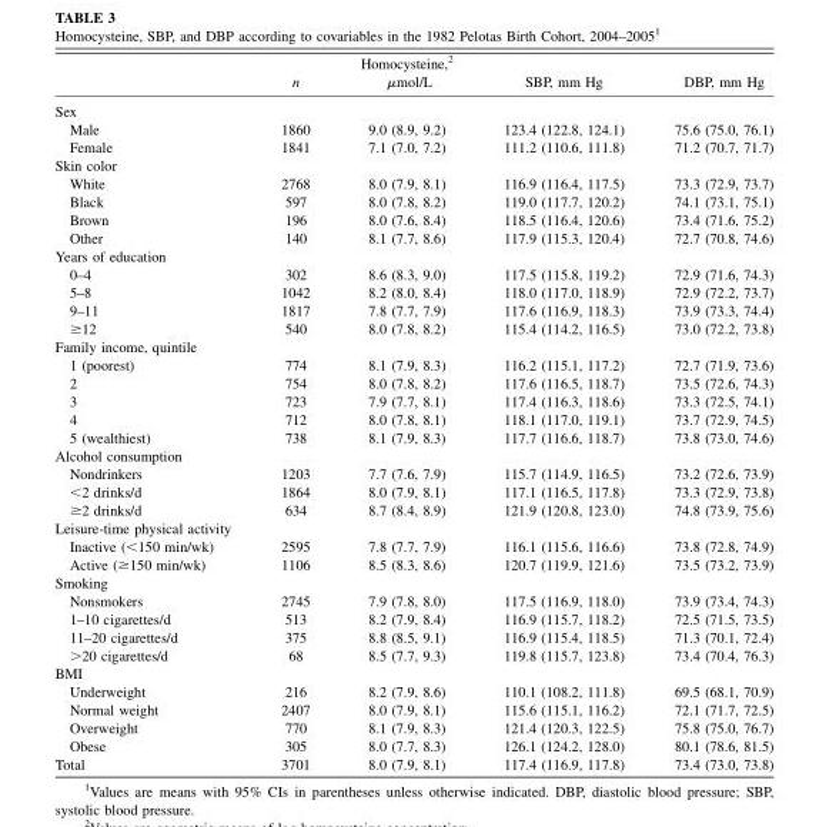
<table><thead><tr><td></td><td>n</td><td>Homocysteine,<sup>2</sup> μmol/L</td><td>SBP, mm Hg</td><td>DBP, mm Hg</td></tr></thead><tbody><tr><td colspan="5">Sex</td></tr><tr><td>Male</td><td>1860</td><td>9.0 (8.9, 9.2)</td><td>123.4 (122.8, 124.1)</td><td>75.6 (75.0, 76.1)</td></tr><tr><td>Female</td><td>1841</td><td>7.1 (7.0, 7.2)</td><td>111.2 (110.6, 111.8)</td><td>71.2 (70.7, 71.7)</td></tr><tr><td colspan="5">Skin color</td></tr><tr><td>White</td><td>2768</td><td>8.0 (7.9, 8.1)</td><td>116.9 (116.4, 117.5)</td><td>73.3 (72.9, 73.7)</td></tr><tr><td>Black</td><td>597</td><td>8.0 (7.8, 8.2)</td><td>119.0 (117.7, 120.2)</td><td>74.1 (73.1, 75.1)</td></tr><tr><td>Brown</td><td>196</td><td>8.0 (7.6, 8.4)</td><td>118.5 (116.4, 120.6)</td><td>73.4 (71.6, 75.2)</td></tr><tr><td>Other</td><td>140</td><td>8.1 (7.7, 8.6)</td><td>117.9 (115.3, 120.4)</td><td>72.7 (70.8, 74.6)</td></tr><tr><td colspan="5">Years of education</td></tr><tr><td>0–4</td><td>302</td><td>8.6 (8.3, 9.0)</td><td>117.5 (115.8, 119.2)</td><td>72.9 (71.6, 74.3)</td></tr><tr><td>5–8</td><td>1042</td><td>8.2 (8.0, 8.4)</td><td>118.0 (117.0, 118.9)</td><td>72.9 (72.2, 73.7)</td></tr><tr><td>9–11</td><td>1817</td><td>7.8 (7.7, 7.9)</td><td>117.6 (116.9, 118.3)</td><td>73.9 (73.3, 74.4)</td></tr><tr><td>≥12</td><td>540</td><td>8.0 (7.8, 8.2)</td><td>115.4 (114.2, 116.5)</td><td>73.0 (72.2, 73.8)</td></tr><tr><td colspan="5">Family income, quintile</td></tr><tr><td>1 (poorest)</td><td>774</td><td>8.1 (7.9, 8.3)</td><td>116.2 (115.1, 117.2)</td><td>72.7 (71.9, 73.6)</td></tr><tr><td>2</td><td>754</td><td>8.0 (7.8, 8.2)</td><td>117.6 (116.5, 118.7)</td><td>73.5 (72.6, 74.3)</td></tr><tr><td>3</td><td>723</td><td>7.9 (7.7, 8.1)</td><td>117.4 (116.3, 118.6)</td><td>73.3 (72.5, 74.1)</td></tr><tr><td>4</td><td>712</td><td>8.0 (7.8, 8.1)</td><td>118.1 (117.0, 119.1)</td><td>73.7 (72.9, 74.5)</td></tr><tr><td>5 (wealthiest)</td><td>738</td><td>8.1 (7.9, 8.3)</td><td>117.7 (116.6, 118.7)</td><td>73.8 (73.0, 74.6)</td></tr><tr><td colspan="5">Alcohol consumption</td></tr><tr><td>Nondrinkers</td><td>1203</td><td>7.7 (7.6, 7.9)</td><td>115.7 (114.9, 116.5)</td><td>73.2 (72.6, 73.9)</td></tr><tr><td>&lt;2 drinks/d</td><td>1864</td><td>8.0 (7.9, 8.1)</td><td>117.1 (116.5, 117.8)</td><td>73.3 (72.9, 73.8)</td></tr><tr><td>≥2 drinks/d</td><td>634</td><td>8.7 (8.4, 8.9)</td><td>121.9 (120.8, 123.0)</td><td>74.8 (73.9, 75.6)</td></tr><tr><td colspan="5">Leisure-time physical activity</td></tr><tr><td>Inactive (&lt;150 min/wk)</td><td>2595</td><td>7.8 (7.7, 7.9)</td><td>116.1 (115.6, 116.6)</td><td>73.8 (72.8, 74.9)</td></tr><tr><td>Active (≥150 min/wk)</td><td>1106</td><td>8.5 (8.3, 8.6)</td><td>120.7 (119.9, 121.6)</td><td>73.5 (73.2, 73.9)</td></tr><tr><td colspan="5">Smoking</td></tr><tr><td>Nonsmokers</td><td>2745</td><td>7.9 (7.8, 8.0)</td><td>117.5 (116.9, 118.0)</td><td>73.9 (73.4, 74.3)</td></tr><tr><td>1–10 cigarettes/d</td><td>513</td><td>8.2 (7.9, 8.4)</td><td>116.9 (115.7, 118.2)</td><td>72.5 (71.5, 73.5)</td></tr><tr><td>11–20 cigarettes/d</td><td>375</td><td>8.8 (8.5, 9.1)</td><td>116.9 (115.4, 118.5)</td><td>71.3 (70.1, 72.4)</td></tr><tr><td>&gt;20 cigarettes/d</td><td>68</td><td>8.5 (7.7, 9.3)</td><td>119.8 (115.7, 123.8)</td><td>73.4 (70.4, 76.3)</td></tr><tr><td colspan="5">BMI</td></tr><tr><td>Underweight</td><td>216</td><td>8.2 (7.9, 8.6)</td><td>110.1 (108.2, 111.8)</td><td>69.5 (68.1, 70.9)</td></tr><tr><td>Normal weight</td><td>2407</td><td>8.0 (7.9, 8.1)</td><td>115.6 (115.1, 116.2)</td><td>72.1 (71.7, 72.5)</td></tr><tr><td>Overweight</td><td>770</td><td>8.1 (7.9, 8.3)</td><td>121.4 (120.3, 122.5)</td><td>75.8 (75.0, 76.7)</td></tr><tr><td>Obese</td><td>305</td><td>8.0 (7.7, 8.3)</td><td>126.1 (124.2, 128.0)</td><td>80.1 (78.6, 81.5)</td></tr><tr><td>Total</td><td>3701</td><td>8.0 (7.9, 8.1)</td><td>117.4 (116.9, 117.8)</td><td>73.4 (73.0, 73.8)</td></tr></tbody></table>